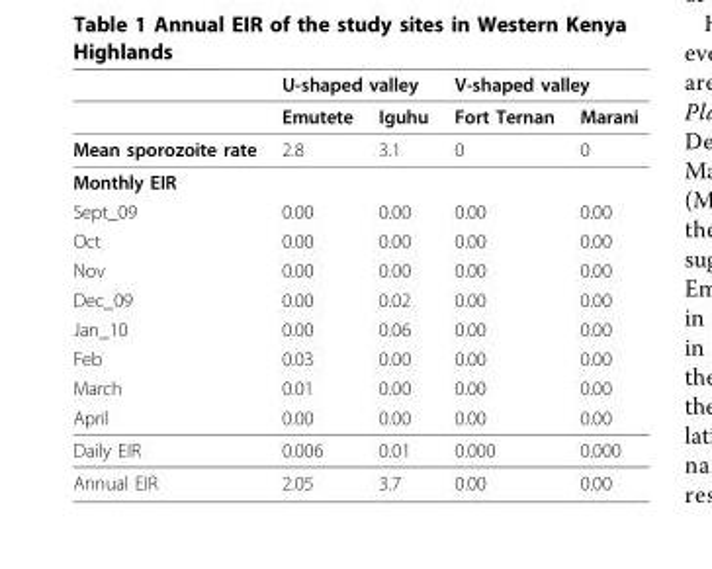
<table><thead><tr><td rowspan="2"></td><td colspan="2">U-shaped valley</td><td colspan="2">V-shaped valley</td></tr><tr><td>Emutete</td><td>Iguhu</td><td>Fort Ternan</td><td>Marani</td></tr></thead><tbody><tr><td>Mean sporozoite rate</td><td>2.8</td><td>3.1</td><td>0</td><td>0</td></tr><tr><td colspan="5">Monthly EIR</td></tr><tr><td>Sept_09</td><td>0.00</td><td>0.00</td><td>0.00</td><td>0.00</td></tr><tr><td>Oct</td><td>0.00</td><td>0.00</td><td>0.00</td><td>0.00</td></tr><tr><td>Nov</td><td>0.00</td><td>0.00</td><td>0.00</td><td>0.00</td></tr><tr><td>Dec_09</td><td>0.00</td><td>0.02</td><td>0.00</td><td>0.00</td></tr><tr><td>Jan_10</td><td>0.00</td><td>0.06</td><td>0.00</td><td>0.00</td></tr><tr><td>Feb</td><td>0.03</td><td>0.00</td><td>0.00</td><td>0.00</td></tr><tr><td>March</td><td>0.01</td><td>0.00</td><td>0.00</td><td>0.00</td></tr><tr><td>April</td><td>0.00</td><td>0.00</td><td>0.00</td><td>0.00</td></tr><tr><td>Daily EIR</td><td>0.006</td><td>0.01</td><td>0.000</td><td>0.000</td></tr><tr><td>Annual EIR</td><td>2.05</td><td>3.7</td><td>0.00</td><td>0.00</td></tr></tbody></table>